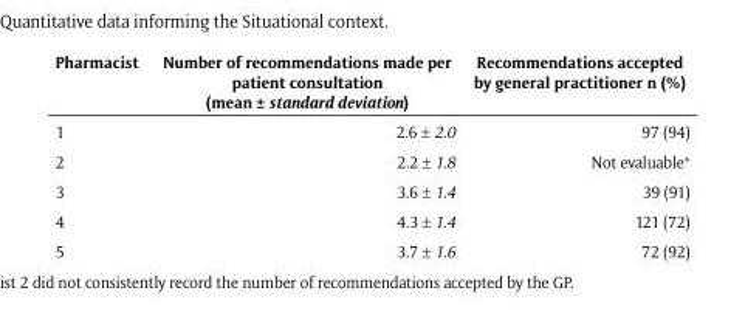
<table><thead><tr><td>Pharmacist</td><td>Number of recommendations made per patient consultation (mean ± standard deviation)</td><td>Recommendations accepted by general practitioner n (%)</td></tr></thead><tbody><tr><td>1</td><td>2.6 ± 2.0</td><td>97 (94)</td></tr><tr><td>2</td><td>2.2 ± 1.8</td><td>Not evaluable*</td></tr><tr><td>3</td><td>3.6 ± 1.4</td><td>39 (91)</td></tr><tr><td>4</td><td>4.3 ± 1.4</td><td>121 (72)</td></tr><tr><td>5</td><td>3.7 ± 1.6</td><td>72 (92)</td></tr></tbody></table>